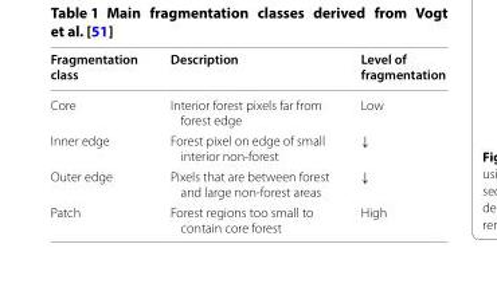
<table><thead><tr><td>Fragmentation class</td><td>Description</td><td>Level of fragmentation</td></tr></thead><tbody><tr><td>Core</td><td>Interior forest pixels far from forest edge</td><td>Low</td></tr><tr><td>Inner edge</td><td>Forest pixel on edge of small interior non‑forest</td><td>↓</td></tr><tr><td>Outer edge</td><td>Pixels that are between forest and large non‑forest areas</td><td>↓</td></tr><tr><td>Patch</td><td>Forest regions too small to contain core forest</td><td>High</td></tr></tbody></table>